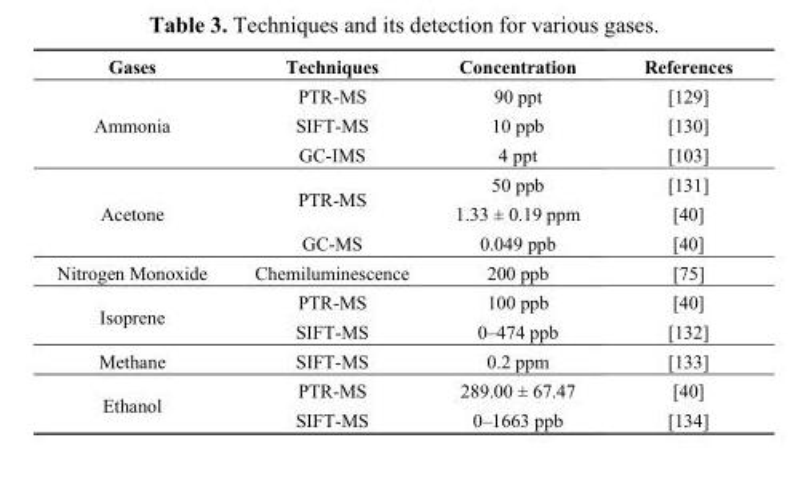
<table><thead><tr><td>Gases</td><td>Techniques</td><td>Concentration</td><td>References</td></tr></thead><tbody><tr><td rowspan="3">Ammonia</td><td>PTR-MS</td><td>90 ppt</td><td>[129]</td></tr><tr><td>SIFT-MS</td><td>10 ppb</td><td>[130]</td></tr><tr><td>GC-IMS</td><td>4 ppt</td><td>[103]</td></tr><tr><td rowspan="3">Acetone</td><td rowspan="2">PTR-MS</td><td>50 ppb</td><td>[131]</td></tr><tr><td>1.33 ± 0.19 ppm</td><td>[40]</td></tr><tr><td>GC-MS</td><td>0.049 ppb</td><td>[40]</td></tr><tr><td>Nitrogen Monoxide</td><td>Chemiluminescence</td><td>200 ppb</td><td>[75]</td></tr><tr><td rowspan="2">Isoprene</td><td>PTR-MS</td><td>100 ppb</td><td>[40]</td></tr><tr><td>SIFT-MS</td><td>0–474 ppb</td><td>[132]</td></tr><tr><td>Methane</td><td>SIFT-MS</td><td>0.2 ppm</td><td>[133]</td></tr><tr><td rowspan="2">Ethanol</td><td>PTR-MS</td><td>289.00 ± 67.47</td><td>[40]</td></tr><tr><td>SIFT-MS</td><td>0–1663 ppb</td><td>[134]</td></tr></tbody></table>